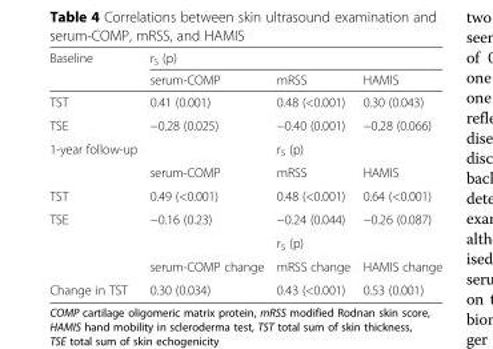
<table><thead><tr><td rowspan="2">Baseline</td><td colspan="3">r<sub>S</sub> (p)</td></tr><tr><td>serum-COMP</td><td>mRSS</td><td>HAMIS</td></tr></thead><tbody><tr><td>TST</td><td>0.41 (0.001)</td><td>0.48 (&lt;0.001)</td><td>0.30 (0.043)</td></tr><tr><td>TSE</td><td>−0.28 (0.025)</td><td>−0.40 (0.001)</td><td>−0.28 (0.066)</td></tr><tr><td rowspan="2">1-year follow-up</td><td></td><td>r<sub>S</sub> (p)</td><td></td></tr><tr><td>serum-COMP</td><td>mRSS</td><td>HAMIS</td></tr><tr><td>TST</td><td>0.49 (&lt;0.001)</td><td>0.48 (&lt;0.001)</td><td>0.64 (&lt;0.001)</td></tr><tr><td rowspan="3">TSE</td><td>−0.16 (0.23)</td><td>−0.24 (0.044)</td><td>−0.26 (0.087)</td></tr><tr><td></td><td>r<sub>S</sub> (p)</td><td></td></tr><tr><td>serum-COMP change</td><td>mRSS change</td><td>HAMIS change</td></tr><tr><td>Change in TST</td><td>0.30 (0.034)</td><td>0.43 (&lt;0.001)</td><td>0.53 (0.001)</td></tr></tbody></table>